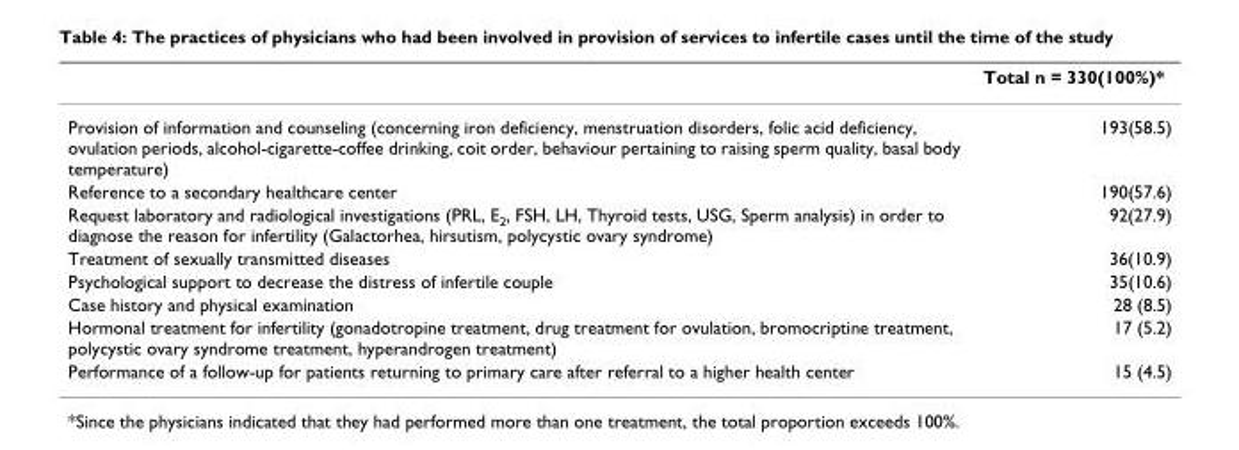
<table><thead><tr><td></td><td>Total n = 330(100%)*</td></tr></thead><tbody><tr><td>Provision of information and counseling (concerning iron deficiency, menstruation disorders, folic acid deficiency, ovulation periods, alcohol-cigarette-coffee drinking, coit order, behaviour pertaining to raising sperm quality, basal body temperature)</td><td>193(58.5)</td></tr><tr><td>Reference to a secondary healthcare center</td><td>190(57.6)</td></tr><tr><td>Request laboratory and radiological investigations (PRL, E<sub>2</sub>, FSH, LH, Thyroid tests, USG, Sperm analysis) in order to diagnose the reason for infertility (Galactorhea, hirsutism, polycystic ovary syndrome)</td><td>92(27.9)</td></tr><tr><td>Treatment of sexually transmitted diseases</td><td>36(10.9)</td></tr><tr><td>Psychological support to decrease the distress of infertile couple</td><td>35(10.6)</td></tr><tr><td>Case history and physical examination</td><td>28 (8.5)</td></tr><tr><td>Hormonal treatment for infertility (gonadotropine treatment, drug treatment for ovulation, bromocriptine treatment, polycystic ovary syndrome treatment, hyperandrogen treatment)</td><td>17 (5.2)</td></tr><tr><td>Performance of a follow-up for patients returning to primary care after referral to a higher health center</td><td>15 (4.5)</td></tr></tbody></table>